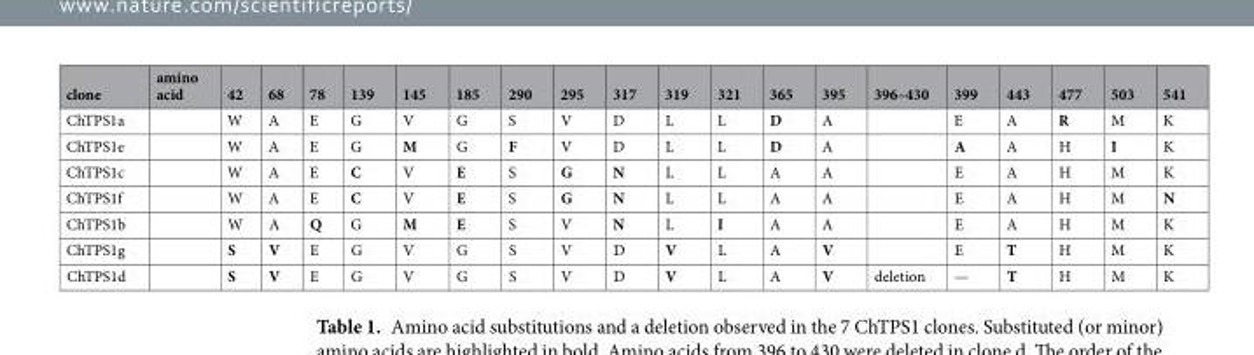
<table><thead><tr><td>clone</td><td>amino acid</td><td>42</td><td>68</td><td>78</td><td>139</td><td>145</td><td>185</td><td>290</td><td>295</td><td>317</td><td>319</td><td>321</td><td>365</td><td>395</td><td>396–430</td><td>399</td><td>443</td><td>477</td><td>503</td><td>541</td></tr></thead><tbody><tr><td>ChTPS1a</td><td></td><td>W</td><td>A</td><td>E</td><td>G</td><td>V</td><td>G</td><td>S</td><td>V</td><td>D</td><td>L</td><td>L</td><td>D</td><td>A</td><td></td><td>E</td><td>A</td><td>R</td><td>M</td><td>K</td></tr><tr><td>ChTPS1e</td><td></td><td>W</td><td>A</td><td>E</td><td>G</td><td>M</td><td>G</td><td>F</td><td>V</td><td>D</td><td>L</td><td>L</td><td>D</td><td>A</td><td></td><td>A</td><td>A</td><td>H</td><td>I</td><td>K</td></tr><tr><td>ChTPS1c</td><td></td><td>W</td><td>A</td><td>E</td><td>C</td><td>V</td><td>E</td><td>S</td><td>G</td><td>N</td><td>L</td><td>L</td><td>A</td><td>A</td><td></td><td>E</td><td>A</td><td>H</td><td>M</td><td>K</td></tr><tr><td>ChTPS1f</td><td></td><td>W</td><td>A</td><td>E</td><td>C</td><td>V</td><td>E</td><td>S</td><td>G</td><td>N</td><td>L</td><td>L</td><td>A</td><td>A</td><td></td><td>E</td><td>A</td><td>H</td><td>M</td><td>N</td></tr><tr><td>ChTPS1b</td><td></td><td>W</td><td>A</td><td>Q</td><td>G</td><td>M</td><td>E</td><td>S</td><td>V</td><td>N</td><td>L</td><td>I</td><td>A</td><td>A</td><td></td><td>E</td><td>A</td><td>H</td><td>M</td><td>K</td></tr><tr><td>ChTPS1g</td><td></td><td>S</td><td>V</td><td>E</td><td>G</td><td>V</td><td>G</td><td>S</td><td>V</td><td>D</td><td>V</td><td>L</td><td>A</td><td>V</td><td></td><td>E</td><td>T</td><td>H</td><td>M</td><td>K</td></tr><tr><td>ChTPS1d</td><td></td><td>S</td><td>V</td><td>E</td><td>G</td><td>V</td><td>G</td><td>S</td><td>V</td><td>D</td><td>V</td><td>L</td><td>A</td><td>V</td><td>deletion</td><td>—</td><td>T</td><td>H</td><td>M</td><td>K</td></tr></tbody></table>